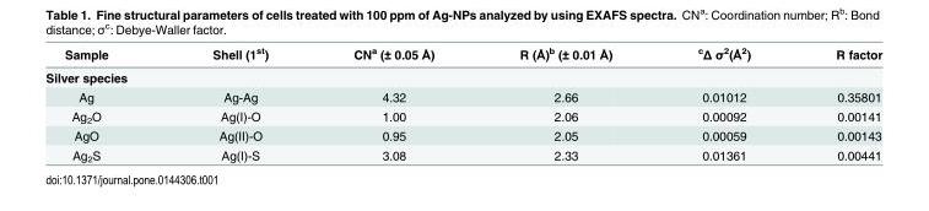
<table><thead><tr><td>Sample</td><td>Shell (1<sup>st</sup>)</td><td>CN<sup>a</sup> (± 0.05 Å)</td><td>R (Å)<sup>b</sup> (± 0.01 Å)</td><td><sup>c</sup>Δ σ<sup>2</sup>(Å<sup>2</sup>)</td><td>R factor</td></tr></thead><tbody><tr><td colspan="6">Silver species</td></tr><tr><td>Ag</td><td>Ag-Ag</td><td>4.32</td><td>2.66</td><td>0.01012</td><td>0.35801</td></tr><tr><td>Ag<sub>2</sub>O</td><td>Ag(I)-O</td><td>1.00</td><td>2.06</td><td>0.00092</td><td>0.00141</td></tr><tr><td>AgO</td><td>Ag(II)-O</td><td>0.95</td><td>2.05</td><td>0.00059</td><td>0.00143</td></tr><tr><td>Ag<sub>2</sub>S</td><td>Ag(I)-S</td><td>3.08</td><td>2.33</td><td>0.01361</td><td>0.00441</td></tr></tbody></table>